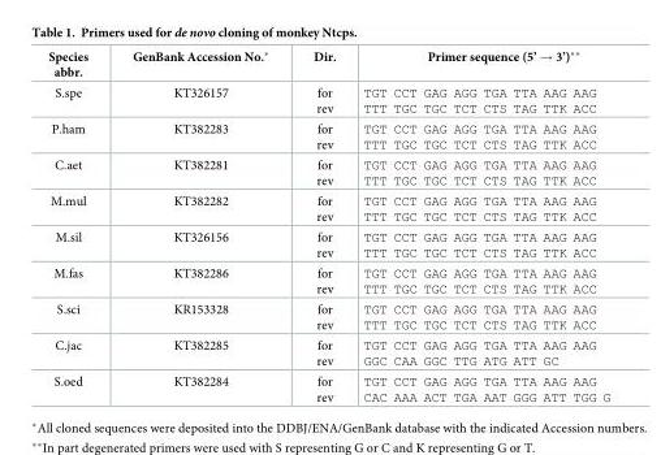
<table><thead><tr><td>Species abbr.</td><td>GenBank Accession No.*</td><td>Dir.</td><td>Primer sequence (5’ → 3’)**</td></tr></thead><tbody><tr><td>S.spe</td><td>KT326157</td><td>for rev</td><td>TGT CCT GAG AGG TGA TTA AAG AAG TTT TGC TGC TCT CTS TAG TTK ACC</td></tr><tr><td>P.ham</td><td>KT382283</td><td>for rev</td><td>TGT CCT GAG AGG TGA TTA AAG AAG TTT TGC TGC TCT CTS TAG TTK ACC</td></tr><tr><td>C.aet</td><td>KT382281</td><td>for rev</td><td>TGT CCT GAG AGG TGA TTA AAG AAG TTT TGC TGC TCT CTS TAG TTK ACC</td></tr><tr><td>M.mul</td><td>KT382282</td><td>for rev</td><td>TGT CCT GAG AGG TGA TTA AAG AAG TTT TGC TGC TCT CTS TAG TTK ACC</td></tr><tr><td>M.sil</td><td>KT326156</td><td>for rev</td><td>TGT CCT GAG AGG TGA TTA AAG AAG TTT TGC TGC TCT CTS TAG TTK ACC</td></tr><tr><td>M.fas</td><td>KT382286</td><td>for rev</td><td>TGT CCT GAG AGG TGA TTA AAG AAG TTT TGC TGC TCT CTS TAG TTK ACC</td></tr><tr><td>S.sci</td><td>KR153328</td><td>for rev</td><td>TGT CCT GAG AGG TGA TTA AAG AAG TTT TGC TGC TCT CTS TAG TTK ACC</td></tr><tr><td>C.jac</td><td>KT382285</td><td>for rev</td><td>TGT CCT GAG AGG TGA TTA AAG AAG GGC CAA GGC TTG ATG ATT GC</td></tr><tr><td>S.oed</td><td>KT382284</td><td>for rev</td><td>TGT CCT GAG AGG TGA TTA AAG AAG CAC AAA ACT TGA AAT GGG ATT TGG G</td></tr></tbody></table>